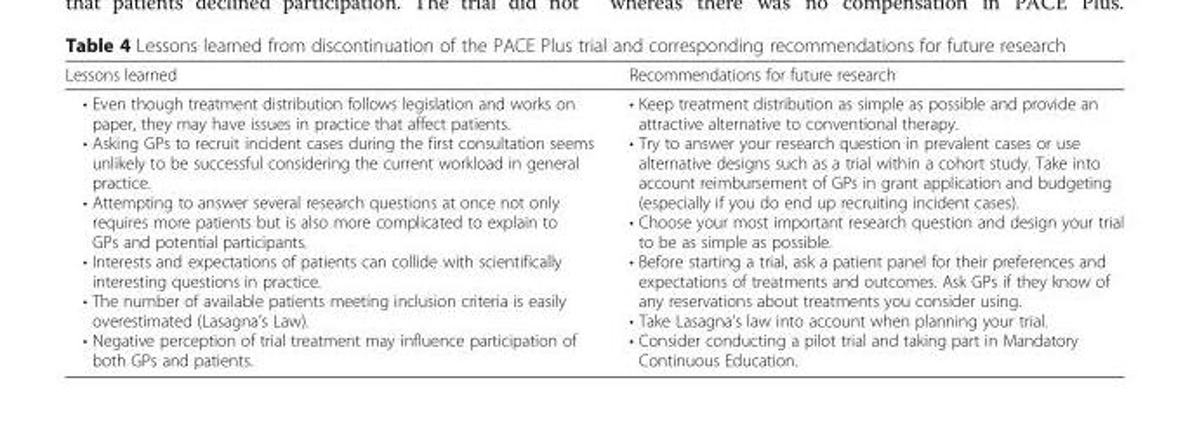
<table><thead><tr><td>Lessons learned</td><td>Recommendations for future research</td></tr></thead><tbody><tr><td>• Even though treatment distribution follows legislation and works on paper, they may have issues in practice that affect patients. • Asking GPs to recruit incident cases during the first consultation seems unlikely to be successful considering the current workload in general practice. • Attempting to answer several research questions at once not only requires more patients but is also more complicated to explain to GPs and potential participants. • Interests and expectations of patients can collide with scientifically interesting questions in practice. • The number of available patients meeting inclusion criteria is easily overestimated (Lasagna’s Law). • Negative perception of trial treatment may influence participation of both GPs and patients.</td><td>• Keep treatment distribution as simple as possible and provide an attractive alternative to conventional therapy. • Try to answer your research question in prevalent cases or use alternative designs such as a trial within a cohort study. Take into account reimbursement of GPs in grant application and budgeting (especially if you do end up recruiting incident cases). • Choose your most important research question and design your trial to be as simple as possible. • Before starting a trial, ask a patient panel for their preferences and expectations of treatments and outcomes. Ask GPs if they know of any reservations about treatments you consider using. • Take Lasagna’s law into account when planning your trial. • Consider conducting a pilot trial and taking part in Mandatory Continuous Education.</td></tr></tbody></table>